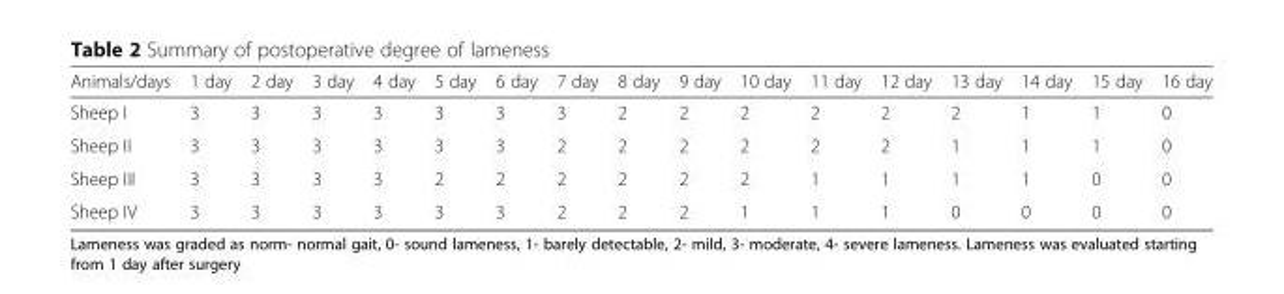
<table><thead><tr><td>Animals/days</td><td>1 day</td><td>2 day</td><td>3 day</td><td>4 day</td><td>5 day</td><td>6 day</td><td>7 day</td><td>8 day</td><td>9 day</td><td>10 day</td><td>11 day</td><td>12 day</td><td>13 day</td><td>14 day</td><td>15 day</td><td>16 day</td></tr></thead><tbody><tr><td>Sheep I</td><td>3</td><td>3</td><td>3</td><td>3</td><td>3</td><td>3</td><td>3</td><td>2</td><td>2</td><td>2</td><td>2</td><td>2</td><td>2</td><td>1</td><td>1</td><td>0</td></tr><tr><td>Sheep II</td><td>3</td><td>3</td><td>3</td><td>3</td><td>3</td><td>3</td><td>2</td><td>2</td><td>2</td><td>2</td><td>2</td><td>2</td><td>1</td><td>1</td><td>1</td><td>0</td></tr><tr><td>Sheep III</td><td>3</td><td>3</td><td>3</td><td>3</td><td>2</td><td>2</td><td>2</td><td>2</td><td>2</td><td>2</td><td>1</td><td>1</td><td>1</td><td>1</td><td>0</td><td>0</td></tr><tr><td>Sheep IV</td><td>3</td><td>3</td><td>3</td><td>3</td><td>3</td><td>3</td><td>2</td><td>2</td><td>2</td><td>1</td><td>1</td><td>1</td><td>0</td><td>0</td><td>0</td><td>0</td></tr></tbody></table>